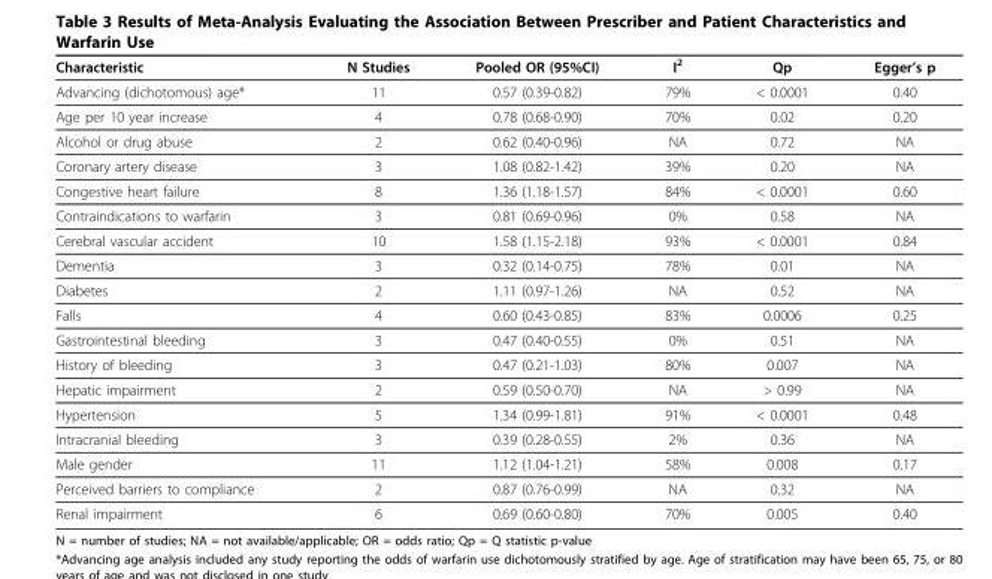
<table><thead><tr><td>Characteristic</td><td>N Studies</td><td>Pooled OR (95%CI)</td><td>I<sup>2</sup></td><td>Qp</td><td>Egger’s p</td></tr></thead><tbody><tr><td>Advancing (dichotomous) age*</td><td>11</td><td>0.57 (0.39-0.82)</td><td>79%</td><td>&lt; 0.0001</td><td>0.40</td></tr><tr><td>Age per 10 year increase</td><td>4</td><td>0.78 (0.68-0.90)</td><td>70%</td><td>0.02</td><td>0.20</td></tr><tr><td>Alcohol or drug abuse</td><td>2</td><td>0.62 (0.40-0.96)</td><td>NA</td><td>0.72</td><td>NA</td></tr><tr><td>Coronary artery disease</td><td>3</td><td>1.08 (0.82-1.42)</td><td>39%</td><td>0.20</td><td>NA</td></tr><tr><td>Congestive heart failure</td><td>8</td><td>1.36 (1.18-1.57)</td><td>84%</td><td>&lt; 0.0001</td><td>0.60</td></tr><tr><td>Contraindications to warfarin</td><td>3</td><td>0.81 (0.69-0.96)</td><td>0%</td><td>0.58</td><td>NA</td></tr><tr><td>Cerebral vascular accident</td><td>10</td><td>1.58 (1.15-2.18)</td><td>93%</td><td>&lt; 0.0001</td><td>0.84</td></tr><tr><td>Dementia</td><td>3</td><td>0.32 (0.14-0.75)</td><td>78%</td><td>0.01</td><td>NA</td></tr><tr><td>Diabetes</td><td>2</td><td>1.11 (0.97-1.26)</td><td>NA</td><td>0.52</td><td>NA</td></tr><tr><td>Falls</td><td>4</td><td>0.60 (0.43-0.85)</td><td>83%</td><td>0.0006</td><td>0.25</td></tr><tr><td>Gastrointestinal bleeding</td><td>3</td><td>0.47 (0.40-0.55)</td><td>0%</td><td>0.51</td><td>NA</td></tr><tr><td>History of bleeding</td><td>3</td><td>0.47 (0.21-1.03)</td><td>80%</td><td>0.007</td><td>NA</td></tr><tr><td>Hepatic impairment</td><td>2</td><td>0.59 (0.50-0.70)</td><td>NA</td><td>&gt; 0.99</td><td>NA</td></tr><tr><td>Hypertension</td><td>5</td><td>1.34 (0.99-1.81)</td><td>91%</td><td>&lt; 0.0001</td><td>0.48</td></tr><tr><td>Intracranial bleeding</td><td>3</td><td>0.39 (0.28-0.55)</td><td>2%</td><td>0.36</td><td>NA</td></tr><tr><td>Male gender</td><td>11</td><td>1.12 (1.04-1.21)</td><td>58%</td><td>0.008</td><td>0.17</td></tr><tr><td>Perceived barriers to compliance</td><td>2</td><td>0.87 (0.76-0.99)</td><td>NA</td><td>0.32</td><td>NA</td></tr><tr><td>Renal impairment</td><td>6</td><td>0.69 (0.60-0.80)</td><td>70%</td><td>0.005</td><td>0.40</td></tr></tbody></table>